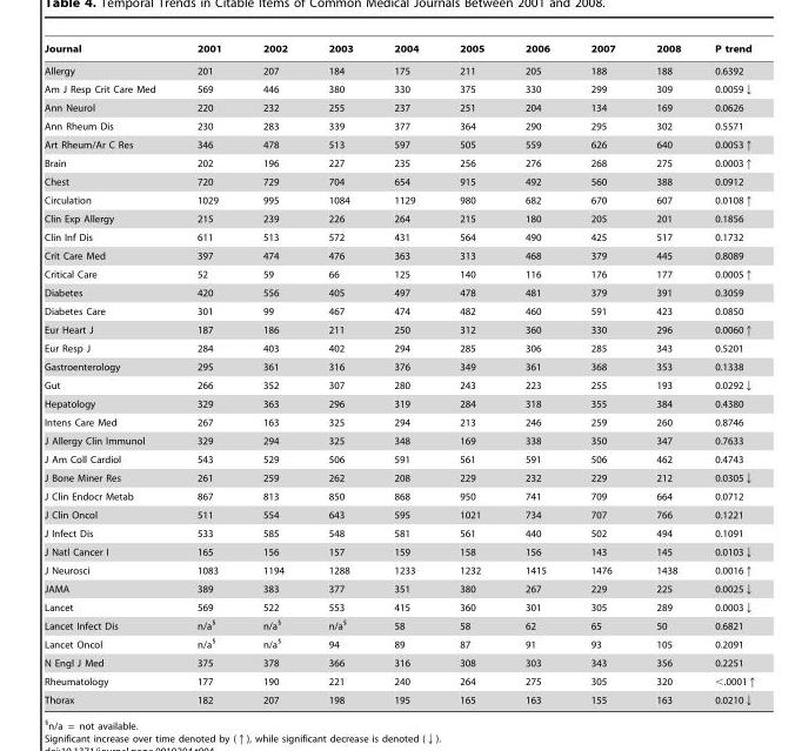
<table><thead><tr><td>Journal</td><td>2001</td><td>2002</td><td>2003</td><td>2004</td><td>2005</td><td>2006</td><td>2007</td><td>2008</td><td>P trend</td></tr></thead><tbody><tr><td>Allergy</td><td>201</td><td>207</td><td>184</td><td>175</td><td>211</td><td>205</td><td>188</td><td>188</td><td>0.6392</td></tr><tr><td>Am J Resp Crit Care Med</td><td>569</td><td>446</td><td>380</td><td>330</td><td>375</td><td>330</td><td>299</td><td>309</td><td>0.0059↓</td></tr><tr><td>Ann Neurol</td><td>220</td><td>232</td><td>255</td><td>237</td><td>251</td><td>204</td><td>134</td><td>169</td><td>0.0626</td></tr><tr><td>Ann Rheum Dis</td><td>230</td><td>283</td><td>339</td><td>377</td><td>364</td><td>290</td><td>295</td><td>302</td><td>0.5571</td></tr><tr><td>Art Rheum/Ar C Res</td><td>346</td><td>478</td><td>513</td><td>597</td><td>505</td><td>559</td><td>626</td><td>640</td><td>0.0053↑</td></tr><tr><td>Brain</td><td>202</td><td>196</td><td>227</td><td>235</td><td>256</td><td>276</td><td>268</td><td>275</td><td>0.0003↑</td></tr><tr><td>Chest</td><td>720</td><td>729</td><td>704</td><td>654</td><td>915</td><td>492</td><td>560</td><td>388</td><td>0.0912</td></tr><tr><td>Circulation</td><td>1029</td><td>995</td><td>1084</td><td>1129</td><td>980</td><td>682</td><td>670</td><td>607</td><td>0.0108↑</td></tr><tr><td>Clin Exp Allergy</td><td>215</td><td>239</td><td>226</td><td>264</td><td>215</td><td>180</td><td>205</td><td>201</td><td>0.1856</td></tr><tr><td>Clin Inf Dis</td><td>611</td><td>513</td><td>572</td><td>431</td><td>564</td><td>490</td><td>425</td><td>517</td><td>0.1732</td></tr><tr><td>Crit Care Med</td><td>397</td><td>474</td><td>476</td><td>363</td><td>313</td><td>468</td><td>379</td><td>445</td><td>0.8089</td></tr><tr><td>Critical Care</td><td>52</td><td>59</td><td>66</td><td>125</td><td>140</td><td>116</td><td>176</td><td>177</td><td>0.0005↑</td></tr><tr><td>Diabetes</td><td>420</td><td>556</td><td>405</td><td>497</td><td>478</td><td>481</td><td>379</td><td>391</td><td>0.3059</td></tr><tr><td>Diabetes Care</td><td>301</td><td>99</td><td>467</td><td>474</td><td>482</td><td>460</td><td>591</td><td>423</td><td>0.0850</td></tr><tr><td>Eur Heart J</td><td>187</td><td>186</td><td>211</td><td>250</td><td>312</td><td>360</td><td>330</td><td>296</td><td>0.0060↑</td></tr><tr><td>Eur Resp J</td><td>284</td><td>403</td><td>402</td><td>294</td><td>285</td><td>306</td><td>285</td><td>343</td><td>0.5201</td></tr><tr><td>Gastroenterology</td><td>295</td><td>361</td><td>316</td><td>376</td><td>349</td><td>361</td><td>368</td><td>353</td><td>0.1338</td></tr><tr><td>Gut</td><td>266</td><td>352</td><td>307</td><td>280</td><td>243</td><td>223</td><td>255</td><td>193</td><td>0.0292↓</td></tr><tr><td>Hepatology</td><td>329</td><td>363</td><td>296</td><td>319</td><td>284</td><td>318</td><td>355</td><td>384</td><td>0.4380</td></tr><tr><td>Intens Care Med</td><td>267</td><td>163</td><td>325</td><td>294</td><td>213</td><td>246</td><td>259</td><td>260</td><td>0.8746</td></tr><tr><td>J Allergy Clin Immunol</td><td>329</td><td>294</td><td>325</td><td>348</td><td>169</td><td>338</td><td>350</td><td>347</td><td>0.7633</td></tr><tr><td>J Am Coll Cardiol</td><td>543</td><td>529</td><td>506</td><td>591</td><td>561</td><td>591</td><td>506</td><td>462</td><td>0.4743</td></tr><tr><td>J Bone Miner Res</td><td>261</td><td>259</td><td>262</td><td>208</td><td>229</td><td>232</td><td>229</td><td>212</td><td>0.0305↓</td></tr><tr><td>J Clin Endocr Metab</td><td>867</td><td>813</td><td>850</td><td>868</td><td>950</td><td>741</td><td>709</td><td>664</td><td>0.0712</td></tr><tr><td>J Clin Oncol</td><td>511</td><td>554</td><td>643</td><td>595</td><td>1021</td><td>734</td><td>707</td><td>766</td><td>0.1221</td></tr><tr><td>J Infect Dis</td><td>533</td><td>585</td><td>548</td><td>581</td><td>561</td><td>440</td><td>502</td><td>494</td><td>0.1091</td></tr><tr><td>J Natl Cancer I</td><td>165</td><td>156</td><td>157</td><td>159</td><td>158</td><td>156</td><td>143</td><td>145</td><td>0.0103↓</td></tr><tr><td>J Neurosci</td><td>1083</td><td>1194</td><td>1288</td><td>1233</td><td>1232</td><td>1415</td><td>1476</td><td>1438</td><td>0.0016↑</td></tr><tr><td>JAMA</td><td>389</td><td>383</td><td>377</td><td>351</td><td>380</td><td>267</td><td>229</td><td>225</td><td>0.0025↓</td></tr><tr><td>Lancet</td><td>569</td><td>522</td><td>553</td><td>415</td><td>360</td><td>301</td><td>305</td><td>289</td><td>0.0003↓</td></tr><tr><td>Lancet Infect Dis</td><td>n/a§</td><td>n/a§</td><td>n/a§</td><td>58</td><td>58</td><td>62</td><td>65</td><td>50</td><td>0.6821</td></tr><tr><td>Lancet Oncol</td><td>n/a§</td><td>n/a§</td><td>94</td><td>89</td><td>87</td><td>91</td><td>93</td><td>105</td><td>0.2091</td></tr><tr><td>N Engl J Med</td><td>375</td><td>378</td><td>366</td><td>316</td><td>308</td><td>303</td><td>343</td><td>356</td><td>0.2251</td></tr><tr><td>Rheumatology</td><td>177</td><td>190</td><td>221</td><td>240</td><td>264</td><td>275</td><td>305</td><td>320</td><td>&lt;.0001↑</td></tr><tr><td>Thorax</td><td>182</td><td>207</td><td>198</td><td>195</td><td>165</td><td>163</td><td>155</td><td>163</td><td>0.0210↓</td></tr></tbody></table>